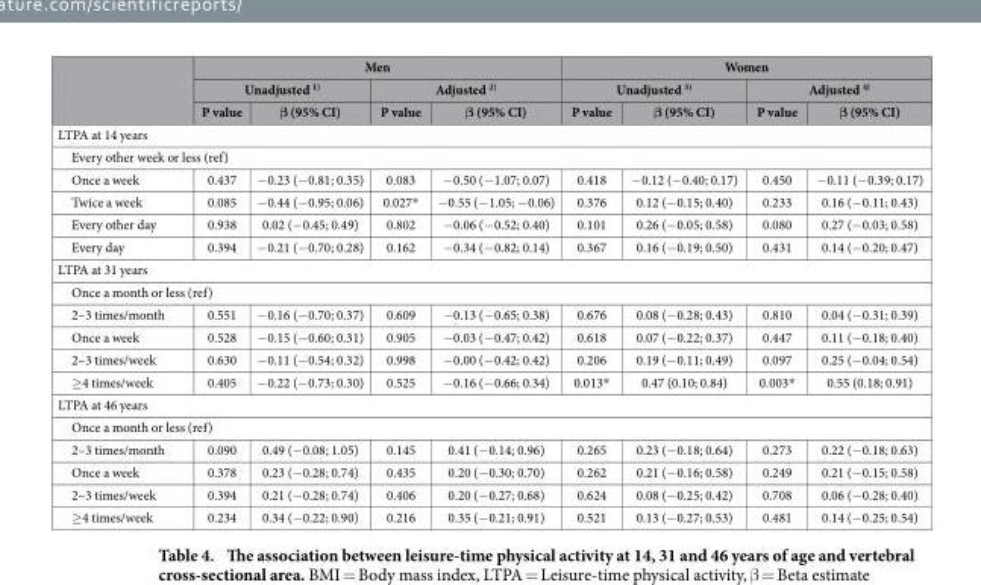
<table><thead><tr><td rowspan="3"></td><td colspan="4">Men</td><td colspan="4">Women</td></tr><tr><td colspan="2">Unadjusted <sup>1)</sup></td><td colspan="2">Adjusted <sup>2)</sup></td><td colspan="2">Unadjusted <sup>3)</sup></td><td colspan="2">Adjusted <sup>4)</sup></td></tr><tr><td>P value</td><td>β (95% CI)</td><td>P value</td><td>β (95% CI)</td><td>P value</td><td>β (95% CI)</td><td>P value</td><td>β (95% CI)</td></tr></thead><tbody><tr><td colspan="9">LTPA at 14 years</td></tr><tr><td colspan="9">Every other week or less (ref)</td></tr><tr><td>Once a week</td><td>0.437</td><td>− 0.23 (− 0.81; 0.35)</td><td>0.083</td><td>− 0.50 (− 1.07; 0.07)</td><td>0.418</td><td>− 0.12 (− 0.40; 0.17)</td><td>0.450</td><td>− 0.11 (− 0.39; 0.17)</td></tr><tr><td>Twice a week</td><td>0.085</td><td>− 0.44 (− 0.95; 0.06)</td><td>0.027*</td><td>− 0.55 (− 1.05; − 0.06)</td><td>0.376</td><td>0.12 (− 0.15; 0.40)</td><td>0.233</td><td>0.16 (− 0.11; 0.43)</td></tr><tr><td>Every other day</td><td>0.938</td><td>0.02 (− 0.45; 0.49)</td><td>0.802</td><td>− 0.06 (− 0.52; 0.40)</td><td>0.101</td><td>0.26 (− 0.05; 0.58)</td><td>0.080</td><td>0.27 (− 0.03; 0.58)</td></tr><tr><td>Every day</td><td>0.394</td><td>− 0.21 (− 0.70; 0.28)</td><td>0.162</td><td>− 0.34 (− 0.82; 0.14)</td><td>0.367</td><td>0.16 (− 0.19; 0.50)</td><td>0.431</td><td>0.14 (− 0.20; 0.47)</td></tr><tr><td colspan="9">LTPA at 31 years</td></tr><tr><td colspan="9">Once a month or less (ref)</td></tr><tr><td>2–3 times/month</td><td>0.551</td><td>− 0.16 (− 0.70; 0.37)</td><td>0.609</td><td>− 0.13 (− 0.65; 0.38)</td><td>0.676</td><td>0.08 (− 0.28; 0.43)</td><td>0.810</td><td>0.04 (− 0.31; 0.39)</td></tr><tr><td>Once a week</td><td>0.528</td><td>− 0.15 (− 0.60; 0.31)</td><td>0.905</td><td>− 0.03 (− 0.47; 0.42)</td><td>0.618</td><td>0.07 (− 0.22; 0.37)</td><td>0.447</td><td>0.11 (− 0.18; 0.40)</td></tr><tr><td>2–3 times/week</td><td>0.630</td><td>− 0.11 (− 0.54; 0.32)</td><td>0.998</td><td>− 0.00 (− 0.42; 0.42)</td><td>0.206</td><td>0.19 (− 0.11; 0.49)</td><td>0.097</td><td>0.25 (− 0.04; 0.54)</td></tr><tr><td>≥4 times/week</td><td>0.405</td><td>− 0.22 (− 0.73; 0.30)</td><td>0.525</td><td>− 0.16 (− 0.66; 0.34)</td><td>0.013*</td><td>0.47 (0.10; 0.84)</td><td>0.003*</td><td>0.55 (0.18; 0.91)</td></tr><tr><td colspan="9">LTPA at 46 years</td></tr><tr><td colspan="9">Once a month or less (ref)</td></tr><tr><td>2–3 times/month</td><td>0.090</td><td>0.49 (− 0.08; 1.05)</td><td>0.145</td><td>0.41 (− 0.14; 0.96)</td><td>0.265</td><td>0.23 (− 0.18; 0.64)</td><td>0.273</td><td>0.22 (− 0.18; 0.63)</td></tr><tr><td>Once a week</td><td>0.378</td><td>0.23 (− 0.28; 0.74)</td><td>0.435</td><td>0.20 (− 0.30; 0.70)</td><td>0.262</td><td>0.21 (− 0.16; 0.58)</td><td>0.249</td><td>0.21 (− 0.15; 0.58)</td></tr><tr><td>2–3 times/week</td><td>0.394</td><td>0.21 (− 0.28; 0.74)</td><td>0.406</td><td>0.20 (− 0.27; 0.68)</td><td>0.624</td><td>0.08 (− 0.25; 0.42)</td><td>0.708</td><td>0.06 (− 0.28; 0.40)</td></tr><tr><td>≥4 times/week</td><td>0.234</td><td>0.34 (− 0.22; 0.90)</td><td>0.216</td><td>0.35 (− 0.21; 0.91)</td><td>0.521</td><td>0.13 (− 0.27; 0.53)</td><td>0.481</td><td>0.14 (− 0.25; 0.54)</td></tr></tbody></table>